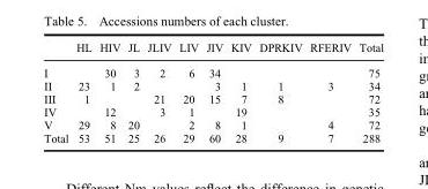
<table><thead><tr><td></td><td>HL</td><td>HIV</td><td>JL</td><td>JLIV</td><td>LIV</td><td>JIV</td><td>KIV</td><td>DPRKIV</td><td>RFERIV</td><td>Total</td></tr></thead><tbody><tr><td>I</td><td></td><td>30</td><td>3</td><td>2</td><td>6</td><td>34</td><td></td><td></td><td></td><td>75</td></tr><tr><td>II</td><td>23</td><td>1</td><td>2</td><td></td><td></td><td>3</td><td>1</td><td>1</td><td>3</td><td>34</td></tr><tr><td>III</td><td>1</td><td></td><td></td><td>21</td><td>20</td><td>15</td><td>7</td><td>8</td><td></td><td>72</td></tr><tr><td>IV</td><td></td><td>12</td><td></td><td>3</td><td>1</td><td></td><td>19</td><td></td><td></td><td>35</td></tr><tr><td>V</td><td>29</td><td>8</td><td>20</td><td></td><td>2</td><td>8</td><td>1</td><td></td><td>4</td><td>72</td></tr><tr><td>Total</td><td>53</td><td>51</td><td>25</td><td>26</td><td>29</td><td>60</td><td>28</td><td>9</td><td>7</td><td>288</td></tr></tbody></table>